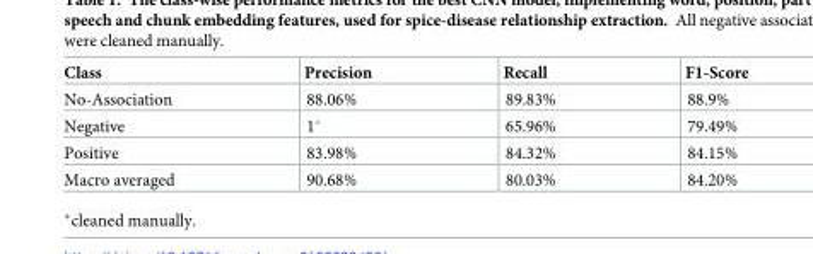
<table><thead><tr><td>Class</td><td>Precision</td><td>Recall</td><td>F1-Score</td></tr></thead><tbody><tr><td>No-Association</td><td>88.06%</td><td>89.83%</td><td>88.9%</td></tr><tr><td>Negative</td><td>1*</td><td>65.96%</td><td>79.49%</td></tr><tr><td>Positive</td><td>83.98%</td><td>84.32%</td><td>84.15%</td></tr><tr><td>Macro averaged</td><td>90.68%</td><td>80.03%</td><td>84.20%</td></tr></tbody></table>